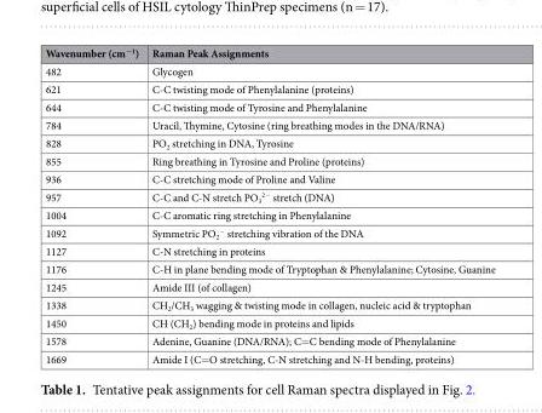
<table><thead><tr><td>Wavenumber (cm<sup>−1</sup>)</td><td>Raman Peak Assignments</td></tr></thead><tbody><tr><td>482</td><td>Glycogen</td></tr><tr><td>621</td><td>C-C twisting mode of Phenylalanine (proteins)</td></tr><tr><td>644</td><td>C-C twisting mode of Tyrosine and Phenylalanine</td></tr><tr><td>784</td><td>Uracil, Thymine, Cytosine (ring breathing modes in the DNA/RNA)</td></tr><tr><td>828</td><td>PO<sub>2</sub> stretching in DNA, Tyrosine</td></tr><tr><td>855</td><td>Ring breathing in Tyrosine and Proline (proteins)</td></tr><tr><td>936</td><td>C-C stretching mode of Proline and Valine</td></tr><tr><td>957</td><td>C-C and C-N stretch PO<sub>3</sub> <sup>2−</sup> stretch (DNA)</td></tr><tr><td>1004</td><td>C-C aromatic ring stretching in Phenylalanine</td></tr><tr><td>1092</td><td>Symmetric PO<sub>2</sub> <sup>−</sup> stretching vibration of the DNA</td></tr><tr><td>1127</td><td>C-N stretching in proteins</td></tr><tr><td>1176</td><td>C-H in plane bending mode of Tryptophan &amp; Phenylalanine; Cytosine, Guanine</td></tr><tr><td>1245</td><td>Amide III (of collagen)</td></tr><tr><td>1338</td><td>CH<sub>2</sub>/CH<sub>3</sub> wagging &amp; twisting mode in collagen, nucleic acid &amp; tryptophan</td></tr><tr><td>1450</td><td>CH (CH<sub>2</sub>) bending mode in proteins and lipids</td></tr><tr><td>1578</td><td>Adenine, Guanine (DNA/RNA); C=C bending mode of Phenylalanine</td></tr><tr><td>1669</td><td>Amide I (C=O stretching, C-N stretching and N-H bending, proteins)</td></tr></tbody></table>